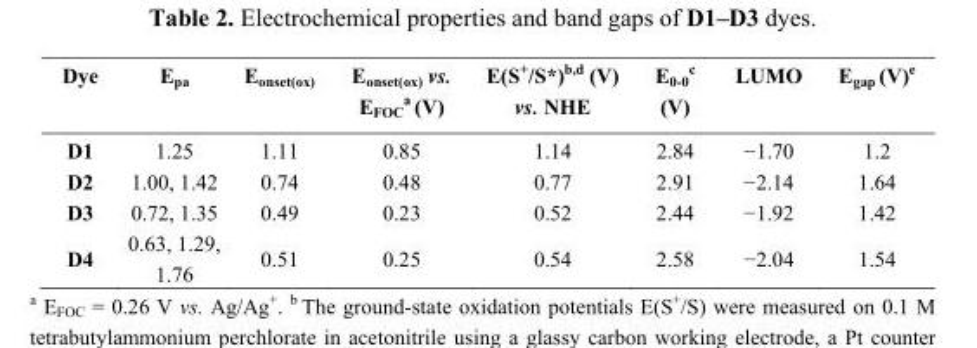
<table><thead><tr><td>Dye</td><td>E<sub>pa</sub></td><td>E<sub>onset(ox)</sub></td><td>E<sub>onset(ox)</sub> vs. E<sub>FOC</sub> <sup>a</sup> (V)</td><td>E(S<sup>+</sup>/S*)<sup>b,d</sup> (V) vs. NHE</td><td>E<sub>0-0</sub> <sup>c</sup> (V)</td><td>LUMO</td><td>E<sub>gap</sub> (V)<sup>e</sup></td></tr></thead><tbody><tr><td>D1</td><td>1.25</td><td>1.11</td><td>0.85</td><td>1.14</td><td>2.84</td><td>−1.70</td><td>1.2</td></tr><tr><td>D2</td><td>1.00, 1.42</td><td>0.74</td><td>0.48</td><td>0.77</td><td>2.91</td><td>−2.14</td><td>1.64</td></tr><tr><td>D3</td><td>0.72, 1.35</td><td>0.49</td><td>0.23</td><td>0.52</td><td>2.44</td><td>−1.92</td><td>1.42</td></tr><tr><td>D4</td><td>0.63, 1.29, 1.76</td><td>0.51</td><td>0.25</td><td>0.54</td><td>2.58</td><td>−2.04</td><td>1.54</td></tr></tbody></table>